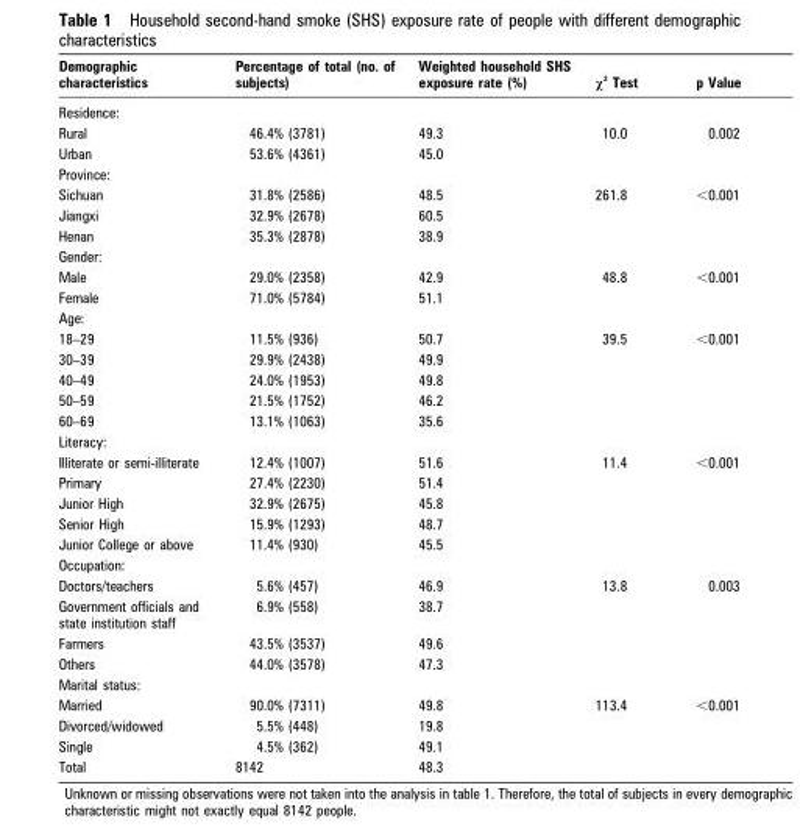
<table><thead><tr><td>Demographic characteristics</td><td>Percentage of total (no. of subjects)</td><td>Weighted household SHS exposure rate (%)</td><td>χ <sup>2</sup> Test</td><td>p Value</td></tr></thead><tbody><tr><td colspan="5">Residence:</td></tr><tr><td>Rural</td><td>46.4% (3781)</td><td>49.3</td><td>10.0</td><td>0.002</td></tr><tr><td>Urban</td><td>53.6% (4361)</td><td>45.0</td><td></td><td></td></tr><tr><td colspan="5">Province:</td></tr><tr><td>Sichuan</td><td>31.8% (2586)</td><td>48.5</td><td>261.8</td><td>&lt;0.001</td></tr><tr><td>Jiangxi</td><td>32.9% (2678)</td><td>60.5</td><td></td><td></td></tr><tr><td>Henan</td><td>35.3% (2878)</td><td>38.9</td><td></td><td></td></tr><tr><td colspan="5">Gender:</td></tr><tr><td>Male</td><td>29.0% (2358)</td><td>42.9</td><td>48.8</td><td>&lt;0.001</td></tr><tr><td>Female</td><td>71.0% (5784)</td><td>51.1</td><td></td><td></td></tr><tr><td colspan="5">Age:</td></tr><tr><td>18–29</td><td>11.5% (936)</td><td>50.7</td><td>39.5</td><td>&lt;0.001</td></tr><tr><td>30–39</td><td>29.9% (2438)</td><td>49.9</td><td></td><td></td></tr><tr><td>40–49</td><td>24.0% (1953)</td><td>49.8</td><td></td><td></td></tr><tr><td>50–59</td><td>21.5% (1752)</td><td>46.2</td><td></td><td></td></tr><tr><td>60–69</td><td>13.1% (1063)</td><td>35.6</td><td></td><td></td></tr><tr><td colspan="5">Literacy:</td></tr><tr><td>Illiterate or semi-illiterate</td><td>12.4% (1007)</td><td>51.6</td><td>11.4</td><td>&lt;0.001</td></tr><tr><td>Primary</td><td>27.4% (2230)</td><td>51.4</td><td></td><td></td></tr><tr><td>Junior High</td><td>32.9% (2675)</td><td>45.8</td><td></td><td></td></tr><tr><td>Senior High</td><td>15.9% (1293)</td><td>48.7</td><td></td><td></td></tr><tr><td>Junior College or above</td><td>11.4% (930)</td><td>45.5</td><td></td><td></td></tr><tr><td colspan="5">Occupation:</td></tr><tr><td>Doctors/teachers</td><td>5.6% (457)</td><td>46.9</td><td>13.8</td><td>0.003</td></tr><tr><td>Government officials and state institution staff</td><td>6.9% (558)</td><td>38.7</td><td></td><td></td></tr><tr><td>Farmers</td><td>43.5% (3537)</td><td>49.6</td><td></td><td></td></tr><tr><td>Others</td><td>44.0% (3578)</td><td>47.3</td><td></td><td></td></tr><tr><td colspan="5">Marital status:</td></tr><tr><td>Married</td><td>90.0% (7311)</td><td>49.8</td><td>113.4</td><td>&lt;0.001</td></tr><tr><td>Divorced/widowed</td><td>5.5% (448)</td><td>19.8</td><td></td><td></td></tr><tr><td>Single</td><td>4.5% (362)</td><td>49.1</td><td></td><td></td></tr><tr><td>Total</td><td>8142</td><td>48.3</td><td></td><td></td></tr></tbody></table>